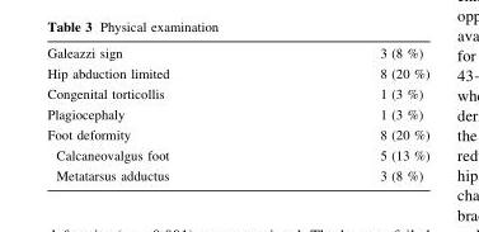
<table><tbody><tr><td>Galeazzi sign</td><td>3 (8 %)</td></tr><tr><td>Hip abduction limited</td><td>8 (20 %)</td></tr><tr><td>Congenital torticollis</td><td>1 (3 %)</td></tr><tr><td>Plagiocephaly</td><td>1 (3 %)</td></tr><tr><td>Foot deformity</td><td>8 (20 %)</td></tr><tr><td>Calcaneovalgus foot</td><td>5 (13 %)</td></tr><tr><td>Metatarsus adductus</td><td>3 (8 %)</td></tr></tbody></table>